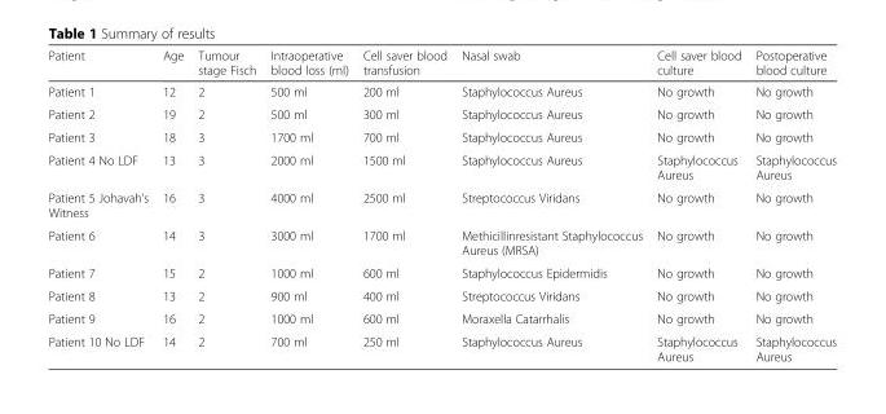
<table><thead><tr><td>Patient</td><td>Age</td><td>Tumour stage Fisch</td><td>Intraoperative blood loss (ml)</td><td>Cell saver blood transfusion</td><td>Nasal swab</td><td>Cell saver blood culture</td><td>Postoperative blood culture</td></tr></thead><tbody><tr><td>Patient 1</td><td>12</td><td>2</td><td>500 ml</td><td>200 ml</td><td>Staphylococcus Aureus</td><td>No growth</td><td>No growth</td></tr><tr><td>Patient 2</td><td>19</td><td>2</td><td>500 ml</td><td>300 ml</td><td>Staphylococcus Aureus</td><td>No growth</td><td>No growth</td></tr><tr><td>Patient 3</td><td>18</td><td>3</td><td>1700 ml</td><td>700 ml</td><td>Staphylococcus Aureus</td><td>No growth</td><td>No growth</td></tr><tr><td>Patient 4 No LDF</td><td>13</td><td>3</td><td>2000 ml</td><td>1500 ml</td><td>Staphylococcus Aureus</td><td>Staphylococcus Aureus</td><td>Staphylococcus Aureus</td></tr><tr><td>Patient 5 Johavah’s Witness</td><td>16</td><td>3</td><td>4000 ml</td><td>2500 ml</td><td>Streptococcus Viridans</td><td>No growth</td><td>No growth</td></tr><tr><td>Patient 6</td><td>14</td><td>3</td><td>3000 ml</td><td>1700 ml</td><td>Methicillinresistant Staphylococcus Aureus (MRSA)</td><td>No growth</td><td>No growth</td></tr><tr><td>Patient 7</td><td>15</td><td>2</td><td>1000 ml</td><td>600 ml</td><td>Staphylococcus Epidermidis</td><td>No growth</td><td>No growth</td></tr><tr><td>Patient 8</td><td>13</td><td>2</td><td>900 ml</td><td>400 ml</td><td>Streptococcus Viridans</td><td>No growth</td><td>No growth</td></tr><tr><td>Patient 9</td><td>16</td><td>2</td><td>1000 ml</td><td>600 ml</td><td>Moraxella Catarrhalis</td><td>No growth</td><td>No growth</td></tr><tr><td>Patient 10 No LDF</td><td>14</td><td>2</td><td>700 ml</td><td>250 ml</td><td>Staphylococcus Aureus</td><td>Staphylococcus Aureus</td><td>Staphylococcus Aureus</td></tr></tbody></table>